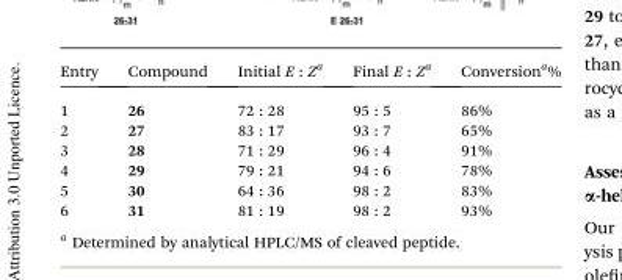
<table><thead><tr><td>Entry</td><td>Compound</td><td>Initial E : Z<sup>a</sup></td><td>Final E : Z<sup>a</sup></td><td>Conversion<sup>a</sup>%</td></tr></thead><tbody><tr><td>1</td><td>26</td><td>72 : 28</td><td>95 : 5</td><td>86%</td></tr><tr><td>2</td><td>27</td><td>83 : 17</td><td>93 : 7</td><td>65%</td></tr><tr><td>3</td><td>28</td><td>71 : 29</td><td>96 : 4</td><td>91%</td></tr><tr><td>4</td><td>29</td><td>79 : 21</td><td>94 : 6</td><td>78%</td></tr><tr><td>5</td><td>30</td><td>64 : 36</td><td>98 : 2</td><td>83%</td></tr><tr><td>6</td><td>31</td><td>81 : 19</td><td>98 : 2</td><td>93%</td></tr></tbody></table>